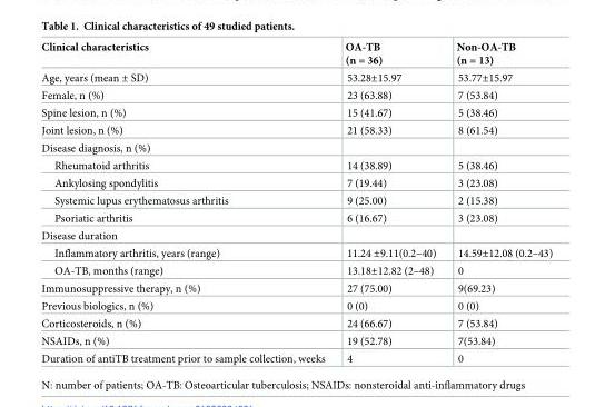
<table><thead><tr><td>Clinical characteristics</td><td>OA-TB (n = 36)</td><td>Non-OA-TB (n = 13)</td></tr></thead><tbody><tr><td>Age, years (mean ± SD)</td><td>53.28±15.97</td><td>53.77±15.97</td></tr><tr><td>Female, n (%)</td><td>23 (63.88)</td><td>7 (53.84)</td></tr><tr><td>Spine lesion, n (%)</td><td>15 (41.67)</td><td>5 (38.46)</td></tr><tr><td>Joint lesion, n (%)</td><td>21 (58.33)</td><td>8 (61.54)</td></tr><tr><td colspan="3">Disease diagnosis, n (%)</td></tr><tr><td>Rheumatoid arthritis</td><td>14 (38.89)</td><td>5 (38.46)</td></tr><tr><td>Ankylosing spondylitis</td><td>7 (19.44)</td><td>3 (23.08)</td></tr><tr><td>Systemic lupus erythematosus arthritis</td><td>9 (25.00)</td><td>2 (15.38)</td></tr><tr><td>Psoriatic arthritis</td><td>6 (16.67)</td><td>3 (23.08)</td></tr><tr><td colspan="3">Disease duration</td></tr><tr><td>Inflammatory arthritis, years (range)</td><td>11.24 ±9.11(0.2–40)</td><td>14.59±12.08 (0.2–43)</td></tr><tr><td>OA-TB, months (range)</td><td>13.18±12.82 (2–48)</td><td>0</td></tr><tr><td>Immunosuppressive therapy, n (%)</td><td>27 (75.00)</td><td>9(69.23)</td></tr><tr><td>Previous biologics, n (%)</td><td>0 (0)</td><td>0 (0)</td></tr><tr><td>Corticosteroids, n (%)</td><td>24 (66.67)</td><td>7 (53.84)</td></tr><tr><td>NSAIDs, n (%)</td><td>19 (52.78)</td><td>7(53.84)</td></tr><tr><td>Duration of antiTB treatment prior to sample collection, weeks</td><td>4</td><td>0</td></tr></tbody></table>